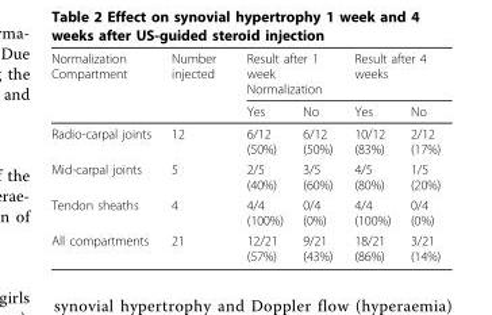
<table><thead><tr><td rowspan="2">Normalization Compartment</td><td rowspan="2">Number injected</td><td colspan="2">Result after 1 week Normalization</td><td colspan="2">Result after 4 weeks</td></tr><tr><td>Yes</td><td>No</td><td>Yes</td><td>No</td></tr></thead><tbody><tr><td>Radio-carpal joints</td><td>12</td><td>6/12 (50%)</td><td>6/12 (50%)</td><td>10/12 (83%)</td><td>2/12 (17%)</td></tr><tr><td>Mid-carpal joints</td><td>5</td><td>2/5 (40%)</td><td>3/5 (60%)</td><td>4/5 (80%)</td><td>1/5 (20%)</td></tr><tr><td>Tendon sheaths</td><td>4</td><td>4/4 (100%)</td><td>0/4 (0%)</td><td>4/4 (100%)</td><td>0/4 (0%)</td></tr><tr><td>All compartments</td><td>21</td><td>12/21 (57%)</td><td>9/21 (43%)</td><td>18/21 (86%)</td><td>3/21 (14%)</td></tr></tbody></table>